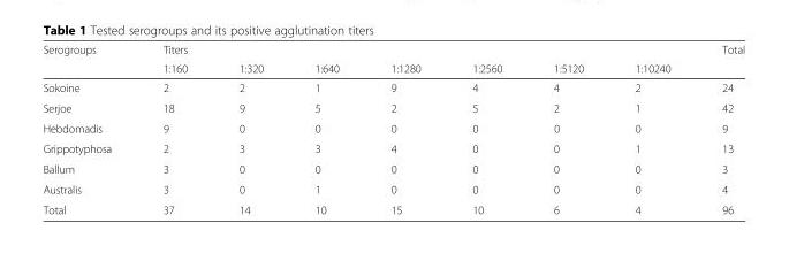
<table><thead><tr><td rowspan="2">Serogroups</td><td rowspan="2">Titers 1:160</td><td rowspan="2">1:320</td><td rowspan="2">1:640</td><td rowspan="2">1:1280</td><td rowspan="2">1:2560</td><td rowspan="2">1:5120</td><td rowspan="2">1:10240</td><td rowspan="2">Total</td></tr><tr></tr></thead><tbody><tr><td>Sokoine</td><td>2</td><td>2</td><td>1</td><td>9</td><td>4</td><td>4</td><td>2</td><td>24</td></tr><tr><td>Serjoe</td><td>18</td><td>9</td><td>5</td><td>2</td><td>5</td><td>2</td><td>1</td><td>42</td></tr><tr><td>Hebdomadis</td><td>9</td><td>0</td><td>0</td><td>0</td><td>0</td><td>0</td><td>0</td><td>9</td></tr><tr><td>Grippotyphosa</td><td>2</td><td>3</td><td>3</td><td>4</td><td>0</td><td>0</td><td>1</td><td>13</td></tr><tr><td>Ballum</td><td>3</td><td>0</td><td>0</td><td>0</td><td>0</td><td>0</td><td>0</td><td>3</td></tr><tr><td>Australis</td><td>3</td><td>0</td><td>1</td><td>0</td><td>0</td><td>0</td><td>0</td><td>4</td></tr><tr><td>Total</td><td>37</td><td>14</td><td>10</td><td>15</td><td>10</td><td>6</td><td>4</td><td>96</td></tr></tbody></table>